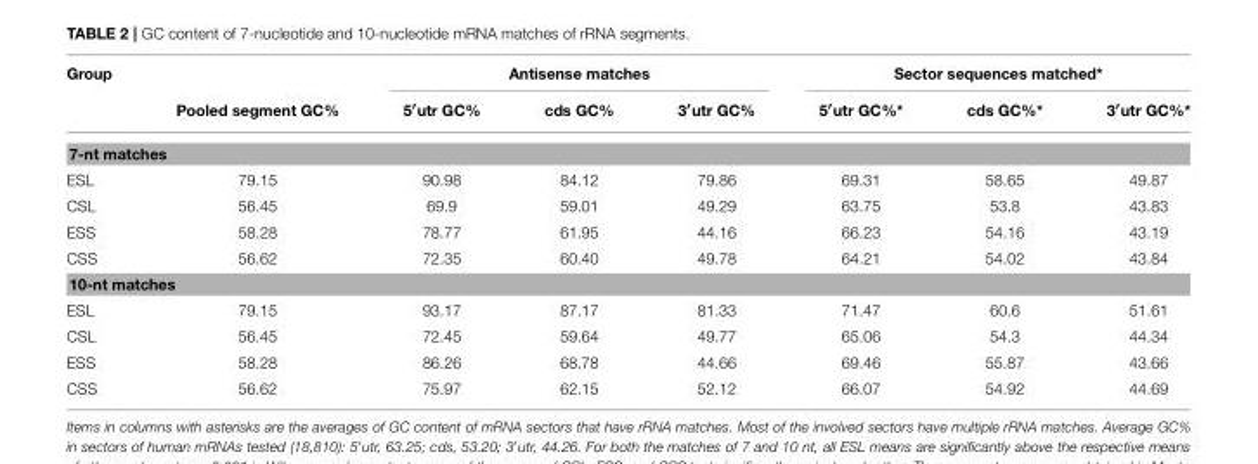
<table><thead><tr><td rowspan="2">Group</td><td rowspan="2">Pooled segment GC%</td><td colspan="3">Antisense matches</td><td colspan="3">Sector sequences matched*</td></tr><tr><td>5′utr GC%</td><td>cds GC%</td><td>3′utr GC%</td><td>5′utr GC%*</td><td>cds GC%*</td><td>3′utr GC%*</td></tr></thead><tbody><tr><td colspan="8">7-nt matches</td></tr><tr><td>ESL</td><td>79.15</td><td>90.98</td><td>84.12</td><td>79.86</td><td>69.31</td><td>58.65</td><td>49.87</td></tr><tr><td>CSL</td><td>56.45</td><td>69.9</td><td>59.01</td><td>49.29</td><td>63.75</td><td>53.8</td><td>43.83</td></tr><tr><td>ESS</td><td>58.28</td><td>78.77</td><td>61.95</td><td>44.16</td><td>66.23</td><td>54.16</td><td>43.19</td></tr><tr><td>CSS</td><td>56.62</td><td>72.35</td><td>60.40</td><td>49.78</td><td>64.21</td><td>54.02</td><td>43.84</td></tr><tr><td colspan="8">10-nt matches</td></tr><tr><td>ESL</td><td>79.15</td><td>93.17</td><td>87.17</td><td>81.33</td><td>71.47</td><td>60.6</td><td>51.61</td></tr><tr><td>CSL</td><td>56.45</td><td>72.45</td><td>59.64</td><td>49.77</td><td>65.06</td><td>54.3</td><td>44.34</td></tr><tr><td>ESS</td><td>58.28</td><td>86.26</td><td>68.78</td><td>44.66</td><td>69.46</td><td>55.87</td><td>43.66</td></tr><tr><td>CSS</td><td>56.62</td><td>75.97</td><td>62.15</td><td>52.12</td><td>66.07</td><td>54.92</td><td>44.69</td></tr></tbody></table>